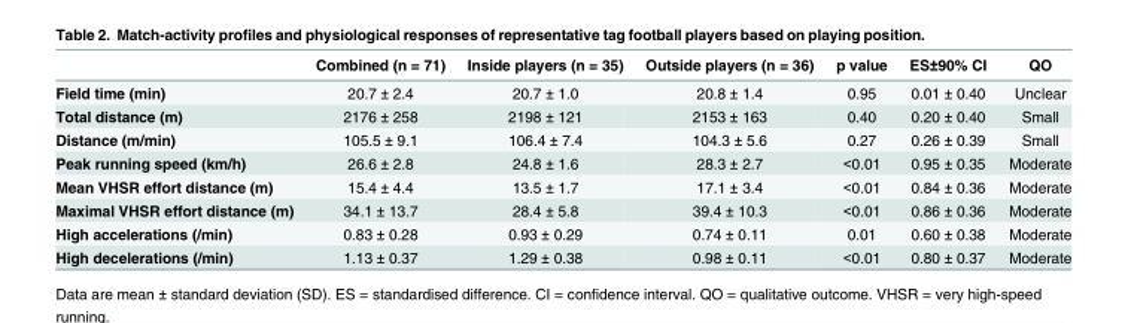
<table><thead><tr><td></td><td>Combined (n = 71)</td><td>Inside players (n = 35)</td><td>Outside players (n = 36)</td><td>p value</td><td>ES±90% CI</td><td>QO</td></tr></thead><tbody><tr><td>Field time (min)</td><td>20.7 ± 2.4</td><td>20.7 ± 1.0</td><td>20.8 ± 1.4</td><td>0.95</td><td>0.01 ± 0.40</td><td>Unclear</td></tr><tr><td>Total distance (m)</td><td>2176 ± 258</td><td>2198 ± 121</td><td>2153 ± 163</td><td>0.40</td><td>0.20 ± 0.40</td><td>Small</td></tr><tr><td>Distance (m/min)</td><td>105.5 ± 9.1</td><td>106.4 ± 7.4</td><td>104.3 ± 5.6</td><td>0.27</td><td>0.26 ± 0.39</td><td>Small</td></tr><tr><td>Peak running speed (km/h)</td><td>26.6 ± 2.8</td><td>24.8 ± 1.6</td><td>28.3 ± 2.7</td><td>&lt;0.01</td><td>0.95 ± 0.35</td><td>Moderate</td></tr><tr><td>Mean VHSR effort distance (m)</td><td>15.4 ± 4.4</td><td>13.5 ± 1.7</td><td>17.1 ± 3.4</td><td>&lt;0.01</td><td>0.84 ± 0.36</td><td>Moderate</td></tr><tr><td>Maximal VHSR effort distance (m)</td><td>34.1 ± 13.7</td><td>28.4 ± 5.8</td><td>39.4 ± 10.3</td><td>&lt;0.01</td><td>0.86 ± 0.36</td><td>Moderate</td></tr><tr><td>High accelerations (/min)</td><td>0.83 ± 0.28</td><td>0.93 ± 0.29</td><td>0.74 ± 0.11</td><td>0.01</td><td>0.60 ± 0.38</td><td>Moderate</td></tr><tr><td>High decelerations (/min)</td><td>1.13 ± 0.37</td><td>1.29 ± 0.38</td><td>0.98 ± 0.11</td><td>&lt;0.01</td><td>0.80 ± 0.37</td><td>Moderate</td></tr></tbody></table>